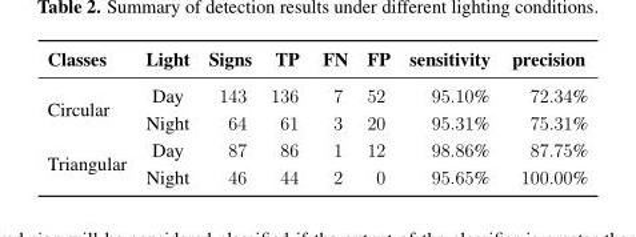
<table><thead><tr><td>Classes</td><td>Light</td><td>Signs</td><td>TP</td><td>FN</td><td>FP</td><td>sensitivity</td><td>precision</td></tr></thead><tbody><tr><td rowspan="2">Circular</td><td>Day</td><td>143</td><td>136</td><td>7</td><td>52</td><td>95.10%</td><td>72.34%</td></tr><tr><td>Night</td><td>64</td><td>61</td><td>3</td><td>20</td><td>95.31%</td><td>75.31%</td></tr><tr><td rowspan="2">Triangular</td><td>Day</td><td>87</td><td>86</td><td>1</td><td>12</td><td>98.86%</td><td>87.75%</td></tr><tr><td>Night</td><td>46</td><td>44</td><td>2</td><td>0</td><td>95.65%</td><td>100.00%</td></tr></tbody></table>